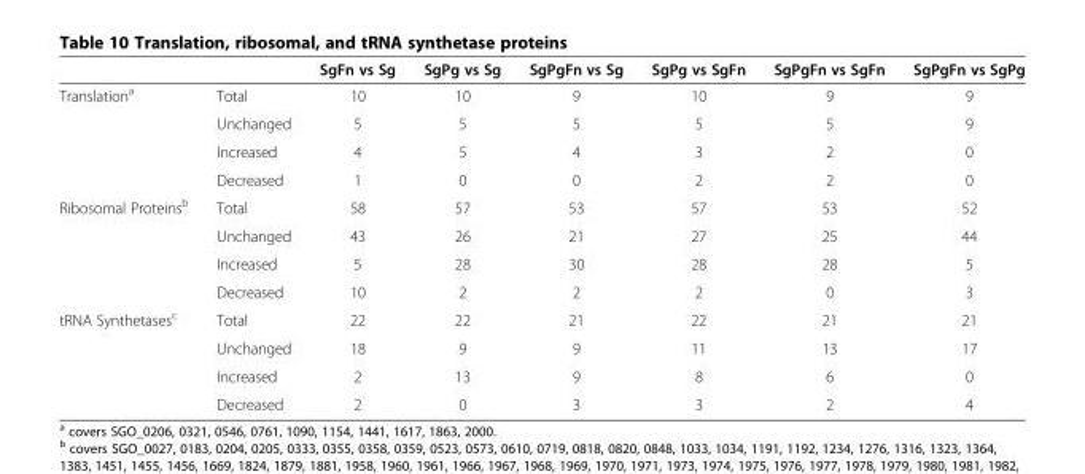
<table><thead><tr><td></td><td></td><td>SgFn vs Sg</td><td>SgPg vs Sg</td><td>SgPgFn vs Sg</td><td>SgPg vs SgFn</td><td>SgPgFn vs SgFn</td><td>SgPgFn vs SgPg</td></tr></thead><tbody><tr><td rowspan="4">Translation<sup>a</sup></td><td>Total</td><td>10</td><td>10</td><td>9</td><td>10</td><td>9</td><td>9</td></tr><tr><td>Unchanged</td><td>5</td><td>5</td><td>5</td><td>5</td><td>5</td><td>9</td></tr><tr><td>Increased</td><td>4</td><td>5</td><td>4</td><td>3</td><td>2</td><td>0</td></tr><tr><td>Decreased</td><td>1</td><td>0</td><td>0</td><td>2</td><td>2</td><td>0</td></tr><tr><td rowspan="4">Ribosomal Proteins<sup>b</sup></td><td>Total</td><td>58</td><td>57</td><td>53</td><td>57</td><td>53</td><td>52</td></tr><tr><td>Unchanged</td><td>43</td><td>26</td><td>21</td><td>27</td><td>25</td><td>44</td></tr><tr><td>Increased</td><td>5</td><td>28</td><td>30</td><td>28</td><td>28</td><td>5</td></tr><tr><td>Decreased</td><td>10</td><td>2</td><td>2</td><td>2</td><td>0</td><td>3</td></tr><tr><td rowspan="4">tRNA Synthetases<sup>c</sup></td><td>Total</td><td>22</td><td>22</td><td>21</td><td>22</td><td>21</td><td>21</td></tr><tr><td>Unchanged</td><td>18</td><td>9</td><td>9</td><td>11</td><td>13</td><td>17</td></tr><tr><td>Increased</td><td>2</td><td>13</td><td>9</td><td>8</td><td>6</td><td>0</td></tr><tr><td>Decreased</td><td>2</td><td>0</td><td>3</td><td>3</td><td>2</td><td>4</td></tr></tbody></table>